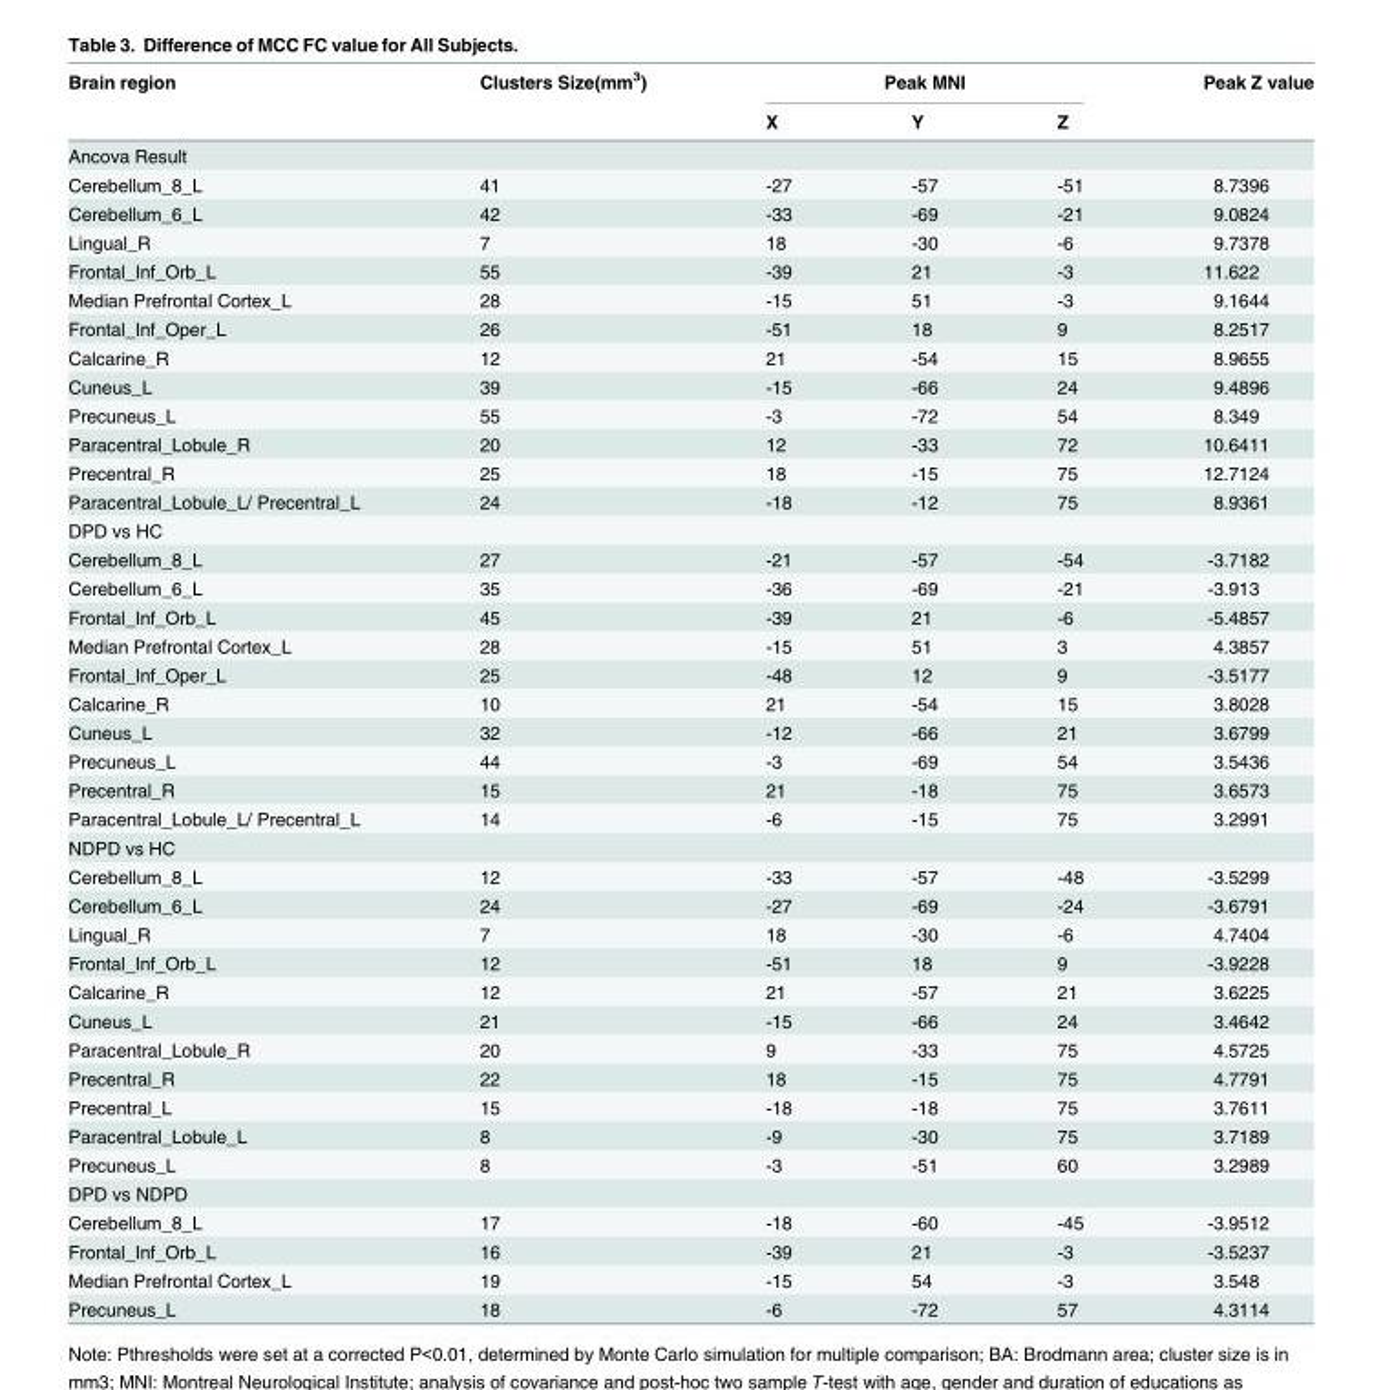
<table><thead><tr><td rowspan="2">Brain region</td><td rowspan="2">Clusters Size(mm<sup>3</sup>)</td><td colspan="3">Peak MNI</td><td rowspan="2">Peak Z value</td></tr><tr><td>X</td><td>Y</td><td>Z</td></tr></thead><tbody><tr><td colspan="6">Ancova Result</td></tr><tr><td>Cerebellum_8_L</td><td>41</td><td>-27</td><td>-57</td><td>-51</td><td>8.7396</td></tr><tr><td>Cerebellum_6_L</td><td>42</td><td>-33</td><td>-69</td><td>-21</td><td>9.0824</td></tr><tr><td>Lingual_R</td><td>7</td><td>18</td><td>-30</td><td>-6</td><td>9.7378</td></tr><tr><td>Frontal_Inf_Orb_L</td><td>55</td><td>-39</td><td>21</td><td>-3</td><td>11.622</td></tr><tr><td>Median Prefrontal Cortex_L</td><td>28</td><td>-15</td><td>51</td><td>-3</td><td>9.1644</td></tr><tr><td>Frontal_Inf_Oper_L</td><td>26</td><td>-51</td><td>18</td><td>9</td><td>8.2517</td></tr><tr><td>Calcarine_R</td><td>12</td><td>21</td><td>-54</td><td>15</td><td>8.9655</td></tr><tr><td>Cuneus_L</td><td>39</td><td>-15</td><td>-66</td><td>24</td><td>9.4896</td></tr><tr><td>Precuneus_L</td><td>55</td><td>-3</td><td>-72</td><td>54</td><td>8.349</td></tr><tr><td>Paracentral_Lobule_R</td><td>20</td><td>12</td><td>-33</td><td>72</td><td>10.6411</td></tr><tr><td>Precentral_R</td><td>25</td><td>18</td><td>-15</td><td>75</td><td>12.7124</td></tr><tr><td>Paracentral_Lobule_L/ Precentral_L</td><td>24</td><td>-18</td><td>-12</td><td>75</td><td>8.9361</td></tr><tr><td colspan="6">DPD vs HC</td></tr><tr><td>Cerebellum_8_L</td><td>27</td><td>-21</td><td>-57</td><td>-54</td><td>-3.7182</td></tr><tr><td>Cerebellum_6_L</td><td>35</td><td>-36</td><td>-69</td><td>-21</td><td>-3.913</td></tr><tr><td>Frontal_Inf_Orb_L</td><td>45</td><td>-39</td><td>21</td><td>-6</td><td>-5.4857</td></tr><tr><td>Median Prefrontal Cortex_L</td><td>28</td><td>-15</td><td>51</td><td>3</td><td>4.3857</td></tr><tr><td>Frontal_Inf_Oper_L</td><td>25</td><td>-48</td><td>12</td><td>9</td><td>-3.5177</td></tr><tr><td>Calcarine_R</td><td>10</td><td>21</td><td>-54</td><td>15</td><td>3.8028</td></tr><tr><td>Cuneus_L</td><td>32</td><td>-12</td><td>-66</td><td>21</td><td>3.6799</td></tr><tr><td>Precuneus_L</td><td>44</td><td>-3</td><td>-69</td><td>54</td><td>3.5436</td></tr><tr><td>Precentral_R</td><td>15</td><td>21</td><td>-18</td><td>75</td><td>3.6573</td></tr><tr><td>Paracentral_Lobule_L/ Precentral_L</td><td>14</td><td>-6</td><td>-15</td><td>75</td><td>3.2991</td></tr><tr><td colspan="6">NDPD vs HC</td></tr><tr><td>Cerebellum_8_L</td><td>12</td><td>-33</td><td>-57</td><td>-48</td><td>-3.5299</td></tr><tr><td>Cerebellum_6_L</td><td>24</td><td>-27</td><td>-69</td><td>-24</td><td>-3.6791</td></tr><tr><td>Lingual_R</td><td>7</td><td>18</td><td>-30</td><td>-6</td><td>4.7404</td></tr><tr><td>Frontal_Inf_Orb_L</td><td>12</td><td>-51</td><td>18</td><td>9</td><td>-3.9228</td></tr><tr><td>Calcarine_R</td><td>12</td><td>21</td><td>-57</td><td>21</td><td>3.6225</td></tr><tr><td>Cuneus_L</td><td>21</td><td>-15</td><td>-66</td><td>24</td><td>3.4642</td></tr><tr><td>Paracentral_Lobule_R</td><td>20</td><td>9</td><td>-33</td><td>75</td><td>4.5725</td></tr><tr><td>Precentral_R</td><td>22</td><td>18</td><td>-15</td><td>75</td><td>4.7791</td></tr><tr><td>Precentral_L</td><td>15</td><td>-18</td><td>-18</td><td>75</td><td>3.7611</td></tr><tr><td>Paracentral_Lobule_L</td><td>8</td><td>-9</td><td>-30</td><td>75</td><td>3.7189</td></tr><tr><td>Precuneus_L</td><td>8</td><td>-3</td><td>-51</td><td>60</td><td>3.2989</td></tr><tr><td colspan="6">DPD vs NDPD</td></tr><tr><td>Cerebellum_8_L</td><td>17</td><td>-18</td><td>-60</td><td>-45</td><td>-3.9512</td></tr><tr><td>Frontal_Inf_Orb_L</td><td>16</td><td>-39</td><td>21</td><td>-3</td><td>-3.5237</td></tr><tr><td>Median Prefrontal Cortex_L</td><td>19</td><td>-15</td><td>54</td><td>-3</td><td>3.548</td></tr><tr><td>Precuneus_L</td><td>18</td><td>-6</td><td>-72</td><td>57</td><td>4.3114</td></tr></tbody></table>